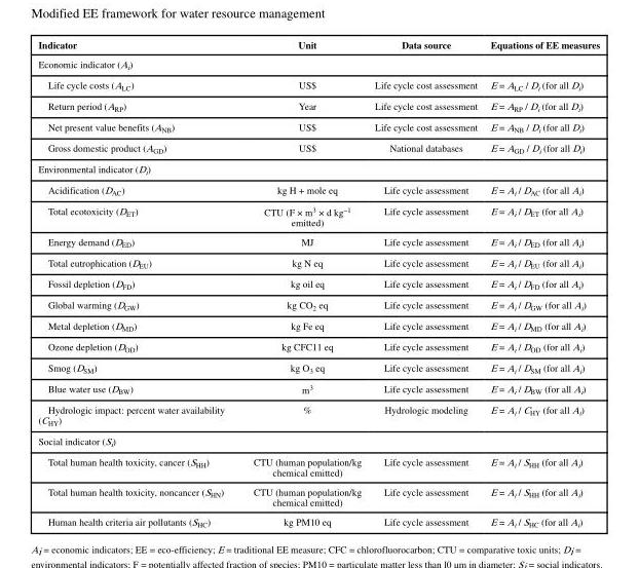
<table><thead><tr><td>Indicator</td><td>Unit</td><td>Data source</td><td>Equations of EE measures</td></tr></thead><tbody><tr><td colspan="4">Economic indicator (A<sub>i</sub>)</td></tr><tr><td>Life cycle costs (A<sub>LC</sub>)</td><td>US$</td><td>Life cycle cost assessment</td><td>E = A<sub>LC</sub> / D<sub>i</sub> (for all D<sub>i</sub>)</td></tr><tr><td>Return period (A<sub>RP</sub>)</td><td>Year</td><td>Life cycle cost assessment</td><td>E = A<sub>RP</sub> / D<sub>i</sub> (for all D<sub>i</sub>)</td></tr><tr><td>Net present value benefits (A<sub>NB</sub>)</td><td>US$</td><td>Life cycle cost assessment</td><td>E = A<sub>NB</sub> / D<sub>i</sub> (for all D<sub>i</sub>)</td></tr><tr><td>Gross domestic product (A<sub>GD</sub>)</td><td>US$</td><td>National databases</td><td>E = A<sub>GD</sub> / D<sub>i</sub> (for all D<sub>i</sub>)</td></tr><tr><td colspan="4">Environmental indicator (D<sub>i</sub>)</td></tr><tr><td>Acidification (D<sub>AC</sub>)</td><td>kg H + mole eq</td><td>Life cycle assessment</td><td>E = A<sub>i</sub> / D<sub>AC</sub> (for all A<sub>i</sub>)</td></tr><tr><td>Total ecotoxicity (D<sub>ET</sub>)</td><td>CTU (F × m<sup>3</sup> × d kg<sup>−1</sup> emitted)</td><td>Life cycle assessment</td><td>E = A<sub>i</sub> / D<sub>ET</sub> (for all A<sub>i</sub>)</td></tr><tr><td>Energy demand (D<sub>ED</sub>)</td><td>MJ</td><td>Life cycle assessment</td><td>E = A<sub>i</sub> / D<sub>ED</sub> (for all A<sub>i</sub>)</td></tr><tr><td>Total eutrophication (D<sub>EU</sub>)</td><td>kg N eq</td><td>Life cycle assessment</td><td>E = A<sub>i</sub> / D<sub>EU</sub> (for all A<sub>i</sub>)</td></tr><tr><td>Fossil depletion (D<sub>FD</sub>)</td><td>kg oil eq</td><td>Life cycle assessment</td><td>E = A<sub>i</sub> / D<sub>FD</sub> (for all A<sub>i</sub>)</td></tr><tr><td>Global warming (D<sub>GW</sub>)</td><td>kg CO<sub>2</sub> eq</td><td>Life cycle assessment</td><td>E = A<sub>i</sub> / D<sub>GW</sub> (for all A<sub>i</sub>)</td></tr><tr><td>Metal depletion (D<sub>MD</sub>)</td><td>kg Fe eq</td><td>Life cycle assessment</td><td>E = A<sub>i</sub> / D<sub>MD</sub> (for all A<sub>i</sub>)</td></tr><tr><td>Ozone depletion (D<sub>OD</sub>)</td><td>kg CFC11 eq</td><td>Life cycle assessment</td><td>E = A<sub>i</sub> / D<sub>OD</sub> (for all A<sub>i</sub>)</td></tr><tr><td>Smog (D<sub>SM</sub>)</td><td>kg O<sub>3</sub> eq</td><td>Life cycle assessment</td><td>E = A<sub>i</sub> / D<sub>SM</sub> (for all A<sub>i</sub>)</td></tr><tr><td>Blue water use (D<sub>BW</sub>)</td><td>m<sup>3</sup></td><td>Life cycle assessment</td><td>E = A<sub>i</sub> / D<sub>BW</sub> (for all A<sub>i</sub>)</td></tr><tr><td>Hydrologic impact: percent water availability (C<sub>HY</sub>)</td><td>%</td><td>Hydrologic modeling</td><td>E = A<sub>i</sub> / C<sub>HY</sub> (for all A<sub>i</sub>)</td></tr><tr><td colspan="4">Social indicator (S<sub>i</sub>)</td></tr><tr><td>Total human health toxicity, cancer (S<sub>HH</sub>)</td><td>CTU (human population/kg chemical emitted)</td><td>Life cycle assessment</td><td>E = A<sub>i</sub> / S<sub>HH</sub> (for all A<sub>i</sub>)</td></tr><tr><td>Total human health toxicity, noncancer (S<sub>HN</sub>)</td><td>CTU (human population/kg chemical emitted)</td><td>Life cycle assessment</td><td>E = A<sub>i</sub> / S<sub>HH</sub> (for all A<sub>i</sub>)</td></tr><tr><td>Human health criteria air pollutants (S<sub>HC</sub>)</td><td>kg PM10 eq</td><td>Life cycle assessment</td><td>E = A<sub>i</sub> / S<sub>HC</sub> (for all A<sub>i</sub>)</td></tr></tbody></table>